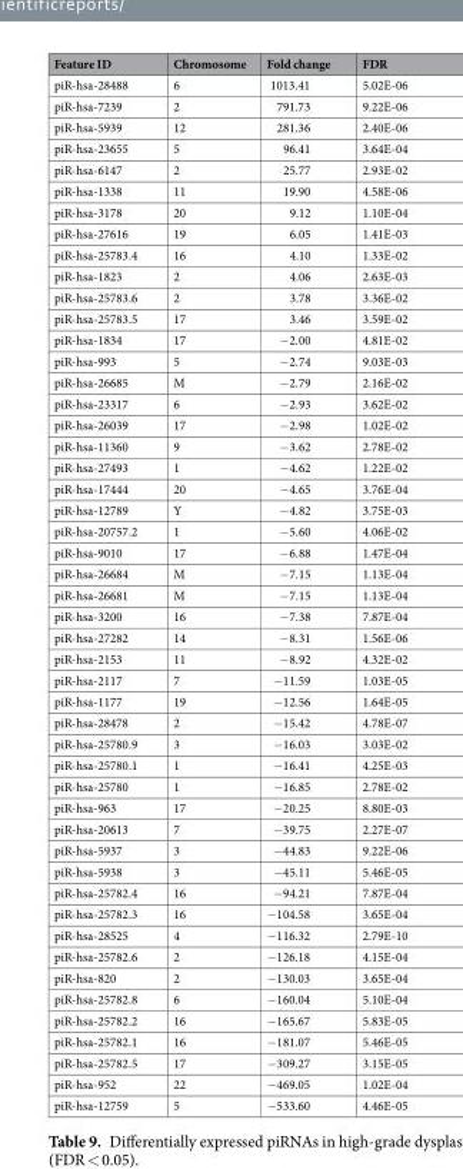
<table><thead><tr><td>Feature ID</td><td>Chromosome</td><td>Fold change</td><td>FDR</td></tr></thead><tbody><tr><td>piR-hsa-28488</td><td>6</td><td>1013.41</td><td>5.02E-06</td></tr><tr><td>piR-hsa-7239</td><td>2</td><td>791.73</td><td>9.22E-06</td></tr><tr><td>piR-hsa-5939</td><td>12</td><td>281.36</td><td>2.40E-06</td></tr><tr><td>piR-hsa-23655</td><td>5</td><td>96.41</td><td>3.64E-04</td></tr><tr><td>piR-hsa-6147</td><td>2</td><td>25.77</td><td>2.93E-02</td></tr><tr><td>piR-hsa-1338</td><td>11</td><td>19.90</td><td>4.58E-06</td></tr><tr><td>piR-hsa-3178</td><td>20</td><td>9.12</td><td>1.10E-04</td></tr><tr><td>piR-hsa-27616</td><td>19</td><td>6.05</td><td>1.41E-03</td></tr><tr><td>piR-hsa-25783.4</td><td>16</td><td>4.10</td><td>1.33E-02</td></tr><tr><td>piR-hsa-1823</td><td>2</td><td>4.06</td><td>2.63E-03</td></tr><tr><td>piR-hsa-25783.6</td><td>2</td><td>3.78</td><td>3.36E-02</td></tr><tr><td>piR-hsa-25783.5</td><td>17</td><td>3.46</td><td>3.59E-02</td></tr><tr><td>piR-hsa-1834</td><td>17</td><td>−2.00</td><td>4.81E-02</td></tr><tr><td>piR-hsa-993</td><td>5</td><td>−2.74</td><td>9.03E-03</td></tr><tr><td>piR-hsa-26685</td><td>M</td><td>−2.79</td><td>2.16E-02</td></tr><tr><td>piR-hsa-23317</td><td>6</td><td>−2.93</td><td>3.62E-02</td></tr><tr><td>piR-hsa-26039</td><td>17</td><td>−2.98</td><td>1.02E-02</td></tr><tr><td>piR-hsa-11360</td><td>9</td><td>−3.62</td><td>2.78E-02</td></tr><tr><td>piR-hsa-27493</td><td>1</td><td>−4.62</td><td>1.22E-02</td></tr><tr><td>piR-hsa-17444</td><td>20</td><td>−4.65</td><td>3.76E-04</td></tr><tr><td>piR-hsa-12789</td><td>Y</td><td>−4.82</td><td>3.75E-03</td></tr><tr><td>piR-hsa-20757.2</td><td>1</td><td>−5.60</td><td>4.06E-02</td></tr><tr><td>piR-hsa-9010</td><td>17</td><td>−6.88</td><td>1.47E-04</td></tr><tr><td>piR-hsa-26684</td><td>M</td><td>−7.15</td><td>1.13E-04</td></tr><tr><td>piR-hsa-26681</td><td>M</td><td>−7.15</td><td>1.13E-04</td></tr><tr><td>piR-hsa-3200</td><td>16</td><td>−7.38</td><td>7.87E-04</td></tr><tr><td>piR-hsa-27282</td><td>14</td><td>−8.31</td><td>1.56E-06</td></tr><tr><td>piR-hsa-2153</td><td>11</td><td>−8.92</td><td>4.32E-02</td></tr><tr><td>piR-hsa-2117</td><td>7</td><td>−11.59</td><td>1.03E-05</td></tr><tr><td>piR-hsa-1177</td><td>19</td><td>−12.56</td><td>1.64E-05</td></tr><tr><td>piR-hsa-28478</td><td>2</td><td>−15.42</td><td>4.78E-07</td></tr><tr><td>piR-hsa-25780.9</td><td>3</td><td>−16.03</td><td>3.03E-02</td></tr><tr><td>piR-hsa-25780.1</td><td>1</td><td>−16.41</td><td>4.25E-03</td></tr><tr><td>piR-hsa-25780</td><td>1</td><td>−16.85</td><td>2.78E-02</td></tr><tr><td>piR-hsa-963</td><td>17</td><td>−20.25</td><td>8.80E-03</td></tr><tr><td>piR-hsa-20613</td><td>7</td><td>−39.75</td><td>2.27E-07</td></tr><tr><td>piR-hsa-5937</td><td>3</td><td>−44.83</td><td>9.22E-06</td></tr><tr><td>piR-hsa-5938</td><td>3</td><td>−45.11</td><td>5.46E-05</td></tr><tr><td>piR-hsa-25782.4</td><td>16</td><td>−94.21</td><td>7.87E-04</td></tr><tr><td>piR-hsa-25782.3</td><td>16</td><td>−104.58</td><td>3.65E-04</td></tr><tr><td>piR-hsa-28525</td><td>4</td><td>−116.32</td><td>2.79E-10</td></tr><tr><td>piR-hsa-25782.6</td><td>2</td><td>−126.18</td><td>4.15E-04</td></tr><tr><td>piR-hsa-820</td><td>2</td><td>−130.03</td><td>3.65E-04</td></tr><tr><td>piR-hsa-25782.8</td><td>6</td><td>−160.04</td><td>5.10E-04</td></tr><tr><td>piR-hsa-25782.2</td><td>16</td><td>−165.67</td><td>5.83E-05</td></tr><tr><td>piR-hsa-25782.1</td><td>16</td><td>−181.07</td><td>5.46E-05</td></tr><tr><td>piR-hsa-25782.5</td><td>17</td><td>−309.27</td><td>3.15E-05</td></tr><tr><td>piR-hsa-952</td><td>22</td><td>−469.05</td><td>1.02E-04</td></tr><tr><td>piR-hsa-12759</td><td>5</td><td>−533.60</td><td>4.46E-05</td></tr></tbody></table>